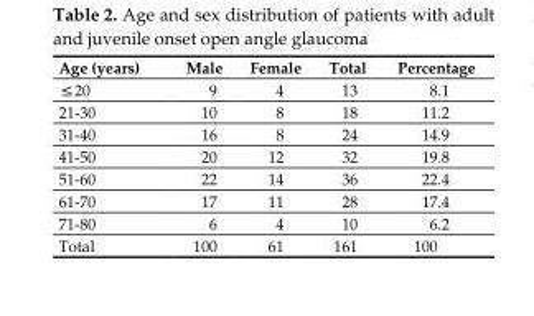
<table><thead><tr><td>Age (years)</td><td>Male</td><td>Female</td><td>Total</td><td>Percentage</td></tr></thead><tbody><tr><td>≤20</td><td>9</td><td>4</td><td>13</td><td>8.1</td></tr><tr><td>21-30</td><td>10</td><td>8</td><td>18</td><td>11.2</td></tr><tr><td>31-40</td><td>16</td><td>8</td><td>24</td><td>14.9</td></tr><tr><td>41-50</td><td>20</td><td>12</td><td>32</td><td>19.8</td></tr><tr><td>51-60</td><td>22</td><td>14</td><td>36</td><td>22.4</td></tr><tr><td>61-70</td><td>17</td><td>11</td><td>28</td><td>17.4</td></tr><tr><td>71-80</td><td>6</td><td>4</td><td>10</td><td>6.2</td></tr><tr><td>Total</td><td>100</td><td>61</td><td>161</td><td>100</td></tr></tbody></table>